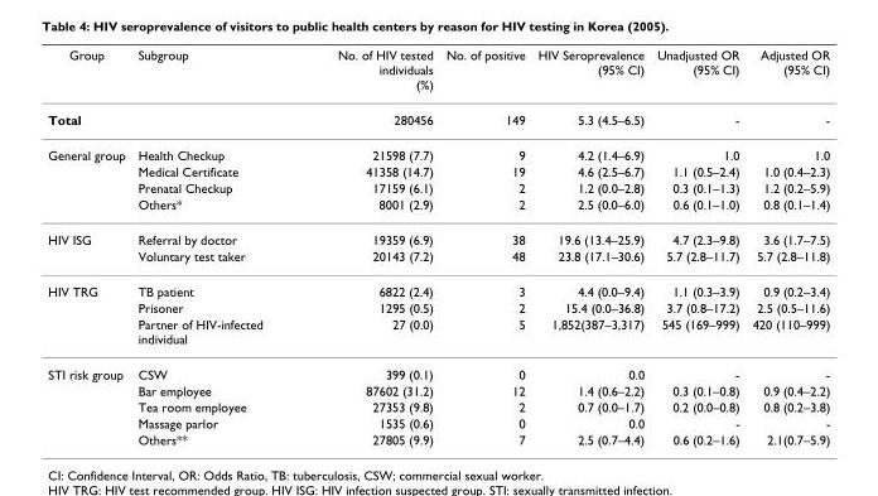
<table><thead><tr><td>Group</td><td>Subgroup</td><td>No. of HIV tested individuals (%)</td><td>No. of positive</td><td>HIV Seroprevalence (95% CI)</td><td>Unadjusted OR (95% CI)</td><td>Adjusted OR (95% CI)</td></tr></thead><tbody><tr><td>Total</td><td></td><td>280456</td><td>149</td><td>5.3 (4.5–6.5)</td><td>-</td><td>-</td></tr><tr><td rowspan="4">General group</td><td>Health Checkup</td><td>21598 (7.7)</td><td>9</td><td>4.2 (1.4–6.9)</td><td>1.0</td><td>1.0</td></tr><tr><td>Medical Certificate</td><td>41358 (14.7)</td><td>19</td><td>4.6 (2.5–6.7)</td><td>1.1 (0.5–2.4)</td><td>1.0 (0.4–2.3)</td></tr><tr><td>Prenatal Checkup</td><td>17159 (6.1)</td><td>2</td><td>1.2 (0.0–2.8)</td><td>0.3 (0.1–1.3)</td><td>1.2 (0.2–5.9)</td></tr><tr><td>Others*</td><td>8001 (2.9)</td><td>2</td><td>2.5 (0.0–6.0)</td><td>0.6 (0.1–1.0)</td><td>0.8 (0.1–1.4)</td></tr><tr><td rowspan="2">HIV ISG</td><td>Referral by doctor</td><td>19359 (6.9)</td><td>38</td><td>19.6 (13.4–25.9)</td><td>4.7 (2.3–9.8)</td><td>3.6 (1.7–7.5)</td></tr><tr><td>Voluntary test taker</td><td>20143 (7.2)</td><td>48</td><td>23.8 (17.1–30.6)</td><td>5.7 (2.8–11.7)</td><td>5.7 (2.8–11.8)</td></tr><tr><td rowspan="3">HIV TRG</td><td>TB patient</td><td>6822 (2.4)</td><td>3</td><td>4.4 (0.0–9.4)</td><td>1.1 (0.3–3.9)</td><td>0.9 (0.2–3.4)</td></tr><tr><td>Prisoner</td><td>1295 (0.5)</td><td>2</td><td>15.4 (0.0–36.8)</td><td>3.7 (0.8–17.2)</td><td>2.5 (0.5–11.6)</td></tr><tr><td>Partner of HIV-infected individual</td><td>27 (0.0)</td><td>5</td><td>1,852(387–3,317)</td><td>545 (169–999)</td><td>420 (110–999)</td></tr><tr><td rowspan="5">STI risk group</td><td>CSW</td><td>399 (0.1)</td><td>0</td><td>0.0</td><td>-</td><td>-</td></tr><tr><td>Bar employee</td><td>87602 (31.2)</td><td>12</td><td>1.4 (0.6–2.2)</td><td>0.3 (0.1–0.8)</td><td>0.9 (0.4–2.2)</td></tr><tr><td>Tea room employee</td><td>27353 (9.8)</td><td>2</td><td>0.7 (0.0–1.7)</td><td>0.2 (0.0–0.8)</td><td>0.8 (0.2–3.8)</td></tr><tr><td>Massage parlor</td><td>1535 (0.6)</td><td>0</td><td>0.0</td><td>-</td><td>-</td></tr><tr><td>Others**</td><td>27805 (9.9)</td><td>7</td><td>2.5 (0.7–4.4)</td><td>0.6 (0.2–1.6)</td><td>2.1(0.7–5.9)</td></tr></tbody></table>